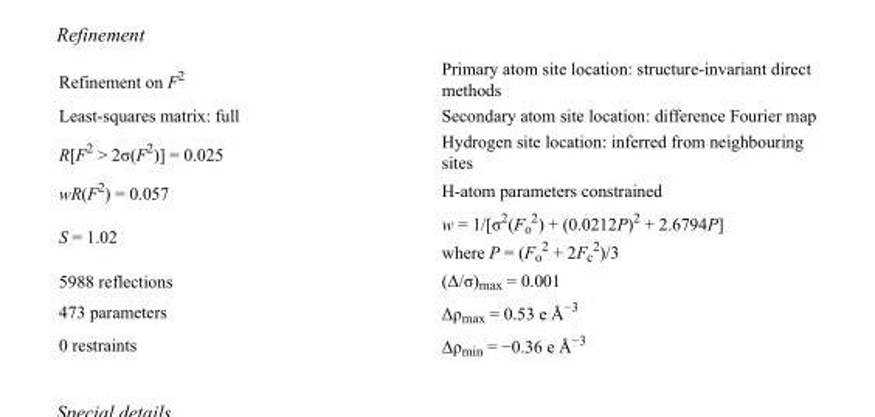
<table><tbody><tr><td>Refinement on F<sup>2</sup></td><td>Primary atom site location: structure-invariant direct methods</td></tr><tr><td>Least-squares matrix: full</td><td>Secondary atom site location: difference Fourier map</td></tr><tr><td>R[F<sup>2</sup> &gt; 2σ(F<sup>2</sup>)] = 0.025</td><td>Hydrogen site location: inferred from neighbouring sites</td></tr><tr><td>wR(F<sup>2</sup>) = 0.057</td><td>H-atom parameters constrained</td></tr><tr><td>S = 1.02</td><td>w = 1/[σ<sup>2</sup>(F<sub>o</sub> <sup>2</sup>) + (0.0212P)<sup>2</sup> + 2.6794P] where P = (F<sub>o</sub> <sup>2</sup> + 2F<sub>c</sub> <sup>2</sup>)/3</td></tr><tr><td>5988 reflections</td><td>(Δ/σ)<sub>max</sub> = 0.001</td></tr><tr><td>473 parameters</td><td>Δρ<sub>max</sub> = 0.53 e Å<sup>−3</sup></td></tr><tr><td>0 restraints</td><td>Δρ<sub>min</sub> = −0.36 e Å<sup>−3</sup></td></tr></tbody></table>